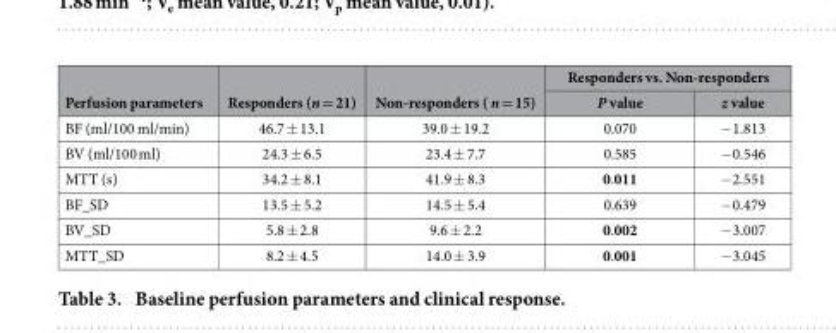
<table><thead><tr><td rowspan="2">Perfusion parameters</td><td rowspan="2">Responders (n = 21)</td><td rowspan="2">Non-responders ( n = 15)</td><td colspan="2">Responders vs. Non-responders</td></tr><tr><td>P value</td><td>z value</td></tr></thead><tbody><tr><td>BF (ml/100 ml/min)</td><td>46.7 ± 13.1</td><td>39.0 ± 19.2</td><td>0.070</td><td>− 1.813</td></tr><tr><td>BV (ml/100 ml)</td><td>24.3 ± 6.5</td><td>23.4 ± 7.7</td><td>0.585</td><td>− 0.546</td></tr><tr><td>MTT (s)</td><td>34.2 ± 8.1</td><td>41.9 ± 8.3</td><td>0.011</td><td>− 2.551</td></tr><tr><td>BF_SD</td><td>13.5 ± 5.2</td><td>14.5 ± 5.4</td><td>0.639</td><td>− 0.479</td></tr><tr><td>BV_SD</td><td>5.8 ± 2.8</td><td>9.6 ± 2.2</td><td>0.002</td><td>− 3.007</td></tr><tr><td>MTT_SD</td><td>8.2 ± 4.5</td><td>14.0 ± 3.9</td><td>0.001</td><td>− 3.045</td></tr></tbody></table>